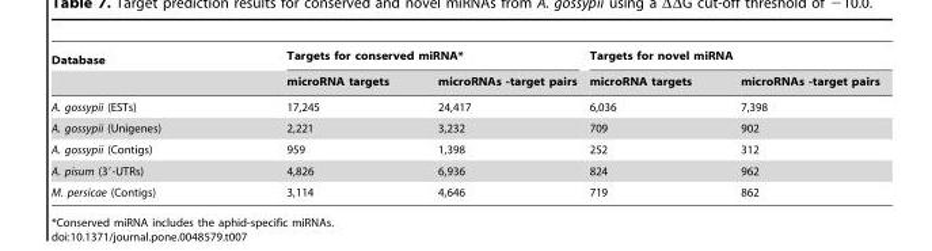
<table><thead><tr><td rowspan="2">Database</td><td colspan="2">Targets for conserved miRNA*</td><td colspan="2">Targets for novel miRNA</td></tr><tr><td>microRNA targets</td><td>microRNAs -target pairs</td><td>microRNA targets</td><td>microRNAs -target pairs</td></tr></thead><tbody><tr><td>A. gossypii (ESTs)</td><td>17,245</td><td>24,417</td><td>6,036</td><td>7,398</td></tr><tr><td>A. gossypii (Unigenes)</td><td>2,221</td><td>3,232</td><td>709</td><td>902</td></tr><tr><td>A. gossypii (Contigs)</td><td>959</td><td>1,398</td><td>252</td><td>312</td></tr><tr><td>A. pisum (3′-UTRs)</td><td>4,826</td><td>6,936</td><td>824</td><td>962</td></tr><tr><td>M. persicae (Contigs)</td><td>3,114</td><td>4,646</td><td>719</td><td>862</td></tr></tbody></table>